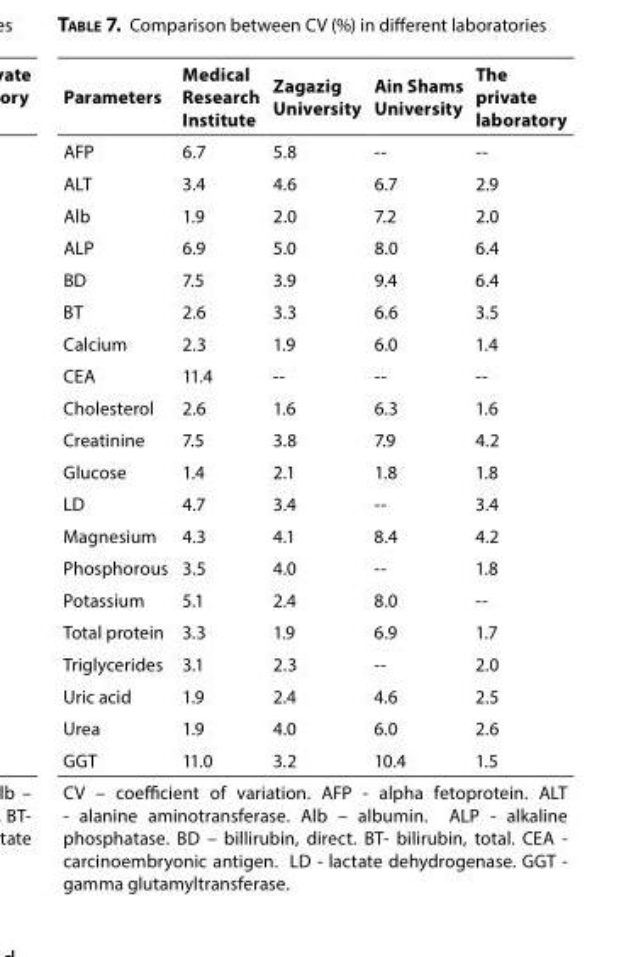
<table><thead><tr><td>Parameters</td><td>Medical Research Institute</td><td>Zagazig University</td><td>Ain Shams University</td><td>The private laboratory</td></tr></thead><tbody><tr><td>AFP</td><td>6.7</td><td>5.8</td><td>--</td><td>--</td></tr><tr><td>ALT</td><td>3.4</td><td>4.6</td><td>6.7</td><td>2.9</td></tr><tr><td>Alb</td><td>1.9</td><td>2.0</td><td>7.2</td><td>2.0</td></tr><tr><td>ALP</td><td>6.9</td><td>5.0</td><td>8.0</td><td>6.4</td></tr><tr><td>BD</td><td>7.5</td><td>3.9</td><td>9.4</td><td>6.4</td></tr><tr><td>BT</td><td>2.6</td><td>3.3</td><td>6.6</td><td>3.5</td></tr><tr><td>Calcium</td><td>2.3</td><td>1.9</td><td>6.0</td><td>1.4</td></tr><tr><td>CEA</td><td>11.4</td><td>--</td><td>--</td><td>--</td></tr><tr><td>Cholesterol</td><td>2.6</td><td>1.6</td><td>6.3</td><td>1.6</td></tr><tr><td>Creatinine</td><td>7.5</td><td>3.8</td><td>7.9</td><td>4.2</td></tr><tr><td>Glucose</td><td>1.4</td><td>2.1</td><td>1.8</td><td>1.8</td></tr><tr><td>LD</td><td>4.7</td><td>3.4</td><td>--</td><td>3.4</td></tr><tr><td>Magnesium</td><td>4.3</td><td>4.1</td><td>8.4</td><td>4.2</td></tr><tr><td>Phosphorous</td><td>3.5</td><td>4.0</td><td>--</td><td>1.8</td></tr><tr><td>Potassium</td><td>5.1</td><td>2.4</td><td>8.0</td><td>--</td></tr><tr><td>Total protein</td><td>3.3</td><td>1.9</td><td>6.9</td><td>1.7</td></tr><tr><td>Triglycerides</td><td>3.1</td><td>2.3</td><td>--</td><td>2.0</td></tr><tr><td>Uric acid</td><td>1.9</td><td>2.4</td><td>4.6</td><td>2.5</td></tr><tr><td>Urea</td><td>1.9</td><td>4.0</td><td>6.0</td><td>2.6</td></tr><tr><td>GGT</td><td>11.0</td><td>3.2</td><td>10.4</td><td>1.5</td></tr><tr><td colspan="5">CV – coefficient of variation. AFP - alpha fetoprotein. ALT - alanine aminotransferase. Alb – albumin. ALP - alkaline phosphatase. BD – billirubin, direct. BT- bilirubin, total. CEA - carcinoembryonic antigen. LD - lactate dehydrogenase. GGT - gamma glutamyltransferase.</td></tr></tbody></table>